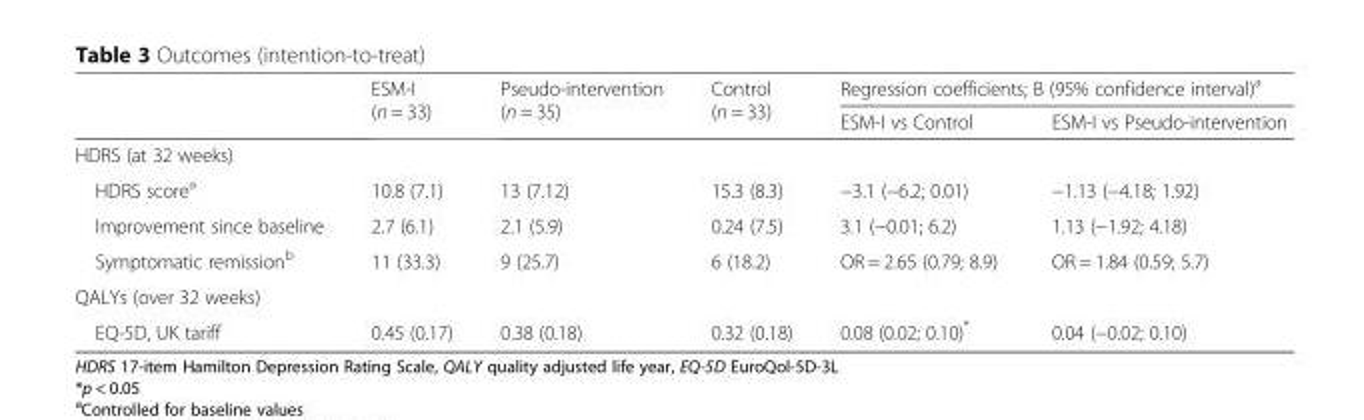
<table><thead><tr><td rowspan="2"></td><td rowspan="2">ESM-I (n = 33)</td><td rowspan="2">Pseudo-intervention (n = 35)</td><td rowspan="2">Control (n = 33)</td><td colspan="2">Regression coefficients; B (95% confidence interval)<sup>a</sup></td></tr><tr><td>ESM-I vs Control</td><td>ESM-I vs Pseudo-intervention</td></tr></thead><tbody><tr><td colspan="6">HDRS (at 32 weeks)</td></tr><tr><td>HDRS score<sup>a</sup></td><td>10.8 (7.1)</td><td>13 (7.12)</td><td>15.3 (8.3)</td><td>−3.1 (−6.2; 0.01)</td><td>−1.13 (−4.18; 1.92)</td></tr><tr><td>Improvement since baseline</td><td>2.7 (6.1)</td><td>2.1 (5.9)</td><td>0.24 (7.5)</td><td>3.1 (−0.01; 6.2)</td><td>1.13 (−1.92; 4.18)</td></tr><tr><td>Symptomatic remission<sup>b</sup></td><td>11 (33.3)</td><td>9 (25.7)</td><td>6 (18.2)</td><td>OR = 2.65 (0.79; 8.9)</td><td>OR = 1.84 (0.59; 5.7)</td></tr><tr><td colspan="6">QALYs (over 32 weeks)</td></tr><tr><td>EQ-5D, UK tariff</td><td>0.45 (0.17)</td><td>0.38 (0.18)</td><td>0.32 (0.18)</td><td>0.08 (0.02; 0.10)*</td><td>0.04 (−0.02; 0.10)</td></tr></tbody></table>